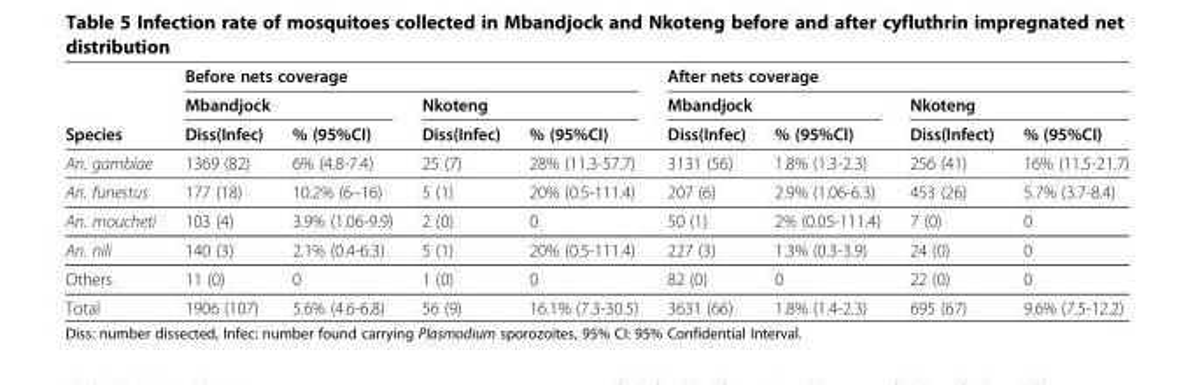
<table><thead><tr><td rowspan="3">Species</td><td colspan="4">Before nets coverage</td><td colspan="4">After nets coverage</td></tr><tr><td colspan="2">Mbandjock</td><td colspan="2">Nkoteng</td><td colspan="2">Mbandjock</td><td colspan="2">Nkoteng</td></tr><tr><td>Diss(Infec)</td><td>% (95%CI)</td><td>Diss(Infec)</td><td>% (95%CI)</td><td>Diss(Infec)</td><td>% (95%CI)</td><td>Diss(Infect)</td><td>% (95%CI)</td></tr></thead><tbody><tr><td>An. gambiae</td><td>1369 (82)</td><td>6% (4.8-7.4)</td><td>25 (7)</td><td>28% (11.3-57.7)</td><td>3131 (56)</td><td>1.8% (1.3-2.3)</td><td>256 (41)</td><td>16% (11.5-21.7)</td></tr><tr><td>An. funestus</td><td>177 (18)</td><td>10.2% (6–16)</td><td>5 (1)</td><td>20% (0.5-111.4)</td><td>207 (6)</td><td>2.9% (1.06-6.3)</td><td>453 (26)</td><td>5.7% (3.7-8.4)</td></tr><tr><td>An. moucheti</td><td>103 (4)</td><td>3.9% (1.06-9.9)</td><td>2 (0)</td><td>0</td><td>50 (1)</td><td>2% (0.05-111.4)</td><td>7 (0)</td><td>0</td></tr><tr><td>An. nili</td><td>140 (3)</td><td>2.1% (0.4-6.3)</td><td>5 (1)</td><td>20% (0.5-111.4)</td><td>227 (3)</td><td>1.3% (0.3-3.9)</td><td>24 (0)</td><td>0</td></tr><tr><td>Others</td><td>11 (0)</td><td>0</td><td>1 (0)</td><td>0</td><td>82 (0)</td><td>0</td><td>22 (0)</td><td>0</td></tr><tr><td>Total</td><td>1906 (107)</td><td>5.6% (4.6-6.8)</td><td>56 (9)</td><td>16.1% (7.3-30.5)</td><td>3631 (66)</td><td>1.8% (1.4-2.3)</td><td>695 (67)</td><td>9.6% (7.5-12.2)</td></tr></tbody></table>